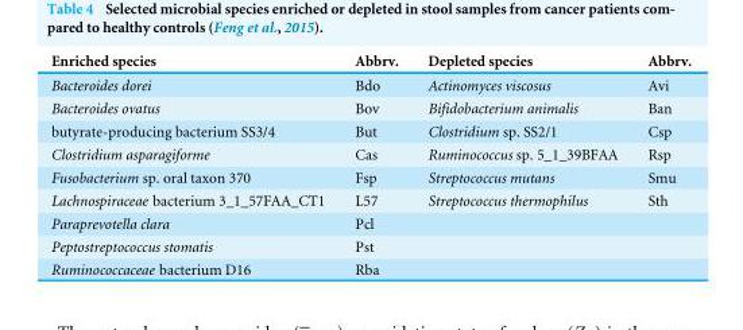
<table><thead><tr><td>Enriched species</td><td>Abbrv.</td><td>Depleted species</td><td>Abbrv.</td></tr></thead><tbody><tr><td>Bacteroides dorei</td><td>Bdo</td><td>Actinomyces viscosus</td><td>Avi</td></tr><tr><td>Bacteroides ovatus</td><td>Bov</td><td>Bifidobacterium animalis</td><td>Ban</td></tr><tr><td>butyrate-producing bacterium SS3/4</td><td>But</td><td>Clostridium sp. SS2/1</td><td>Csp</td></tr><tr><td>Clostridium asparagiforme</td><td>Cas</td><td>Ruminococcus sp. 5_1_39BFAA</td><td>Rsp</td></tr><tr><td>Fusobacterium sp. oral taxon 370</td><td>Fsp</td><td>Streptococcus mutans</td><td>Smu</td></tr><tr><td>Lachnospiraceae bacterium 3_1_57FAA_CT1</td><td>L57</td><td>Streptococcus thermophilus</td><td>Sth</td></tr><tr><td>Paraprevotella clara</td><td>Pcl</td><td></td><td></td></tr><tr><td>Peptostreptococcus stomatis</td><td>Pst</td><td></td><td></td></tr><tr><td>Ruminococcaceae bacterium D16</td><td>Rba</td><td></td><td></td></tr></tbody></table>